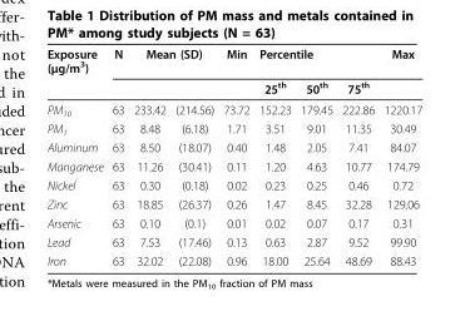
<table><thead><tr><td rowspan="2">Exposure (μg/m<sup>3</sup>)</td><td rowspan="2">N</td><td colspan="2">Mean (SD)</td><td rowspan="2">Min</td><td colspan="3">Percentile</td><td rowspan="2">Max</td></tr><tr><td></td><td></td><td>25<sup>th</sup></td><td>50<sup>th</sup></td><td>75<sup>th</sup></td></tr></thead><tbody><tr><td>PM<sub>10</sub></td><td>63</td><td>233.42</td><td>(214.56)</td><td>73.72</td><td>152.23</td><td>179.45</td><td>222.86</td><td>1220.17</td></tr><tr><td>PM<sub>1</sub></td><td>63</td><td>8.48</td><td>(6.18)</td><td>1.71</td><td>3.51</td><td>9.01</td><td>11.35</td><td>30.49</td></tr><tr><td>Aluminum</td><td>63</td><td>8.50</td><td>(18.07)</td><td>0.40</td><td>1.48</td><td>2.05</td><td>7.41</td><td>84.07</td></tr><tr><td>Manganese</td><td>63</td><td>11.26</td><td>(30.41)</td><td>0.11</td><td>1.20</td><td>4.63</td><td>10.77</td><td>174.79</td></tr><tr><td>Nickel</td><td>63</td><td>0.30</td><td>(0.18)</td><td>0.02</td><td>0.23</td><td>0.25</td><td>0.46</td><td>0.72</td></tr><tr><td>Zinc</td><td>63</td><td>18.85</td><td>(26.37)</td><td>0.26</td><td>1.47</td><td>8.45</td><td>32.28</td><td>129.06</td></tr><tr><td>Arsenic</td><td>63</td><td>0.10</td><td>(0.1)</td><td>0.01</td><td>0.02</td><td>0.07</td><td>0.17</td><td>0.31</td></tr><tr><td>Lead</td><td>63</td><td>7.53</td><td>(17.46)</td><td>0.13</td><td>0.63</td><td>2.87</td><td>9.52</td><td>99.90</td></tr><tr><td>Iron</td><td>63</td><td>32.02</td><td>(22.08)</td><td>0.96</td><td>18.00</td><td>25.64</td><td>48.69</td><td>88.43</td></tr></tbody></table>